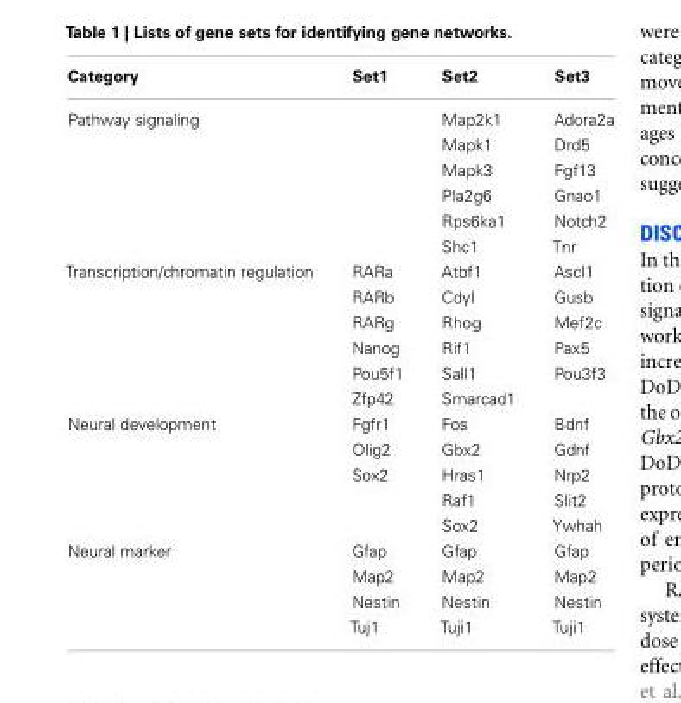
<table><thead><tr><td>Category</td><td>Set1</td><td>Set2</td><td>Set3</td></tr></thead><tbody><tr><td rowspan="6">Pathway signaling</td><td></td><td>Map2k1</td><td>Adora2a</td></tr><tr><td></td><td>Mapk1</td><td>Drd5</td></tr><tr><td></td><td>Mapk3</td><td>Fgf13</td></tr><tr><td></td><td>Pla2g6</td><td>Gnao1</td></tr><tr><td></td><td>Rps6ka1</td><td>Notch2</td></tr><tr><td></td><td>Shc1</td><td>Tnr</td></tr><tr><td rowspan="6">Transcription/chromatin regulation</td><td>RARa</td><td>Atbf1</td><td>Ascl1</td></tr><tr><td>RARb</td><td>Cdyl</td><td>Gusb</td></tr><tr><td>RARg</td><td>Rhog</td><td>Mef2c</td></tr><tr><td>Nanog</td><td>Rif1</td><td>Pax5</td></tr><tr><td>Pou5f1</td><td>Sall1</td><td>Pou3f3</td></tr><tr><td>Zfp42</td><td>Smarcad1</td><td></td></tr><tr><td rowspan="5">Neural development</td><td>Fgfr1</td><td>Fos</td><td>Bdnf</td></tr><tr><td>Olig2</td><td>Gbx2</td><td>Gdnf</td></tr><tr><td>Sox2</td><td>Hras1</td><td>Nrp2</td></tr><tr><td></td><td>Raf1</td><td>Slit2</td></tr><tr><td></td><td>Sox2</td><td>Ywhah</td></tr><tr><td rowspan="4">Neural marker</td><td>Gfap</td><td>Gfap</td><td>Gfap</td></tr><tr><td>Map2</td><td>Map2</td><td>Map2</td></tr><tr><td>Nestin</td><td>Nestin</td><td>Nestin</td></tr><tr><td>Tuj1</td><td>Tuji1</td><td>Tuji1</td></tr></tbody></table>